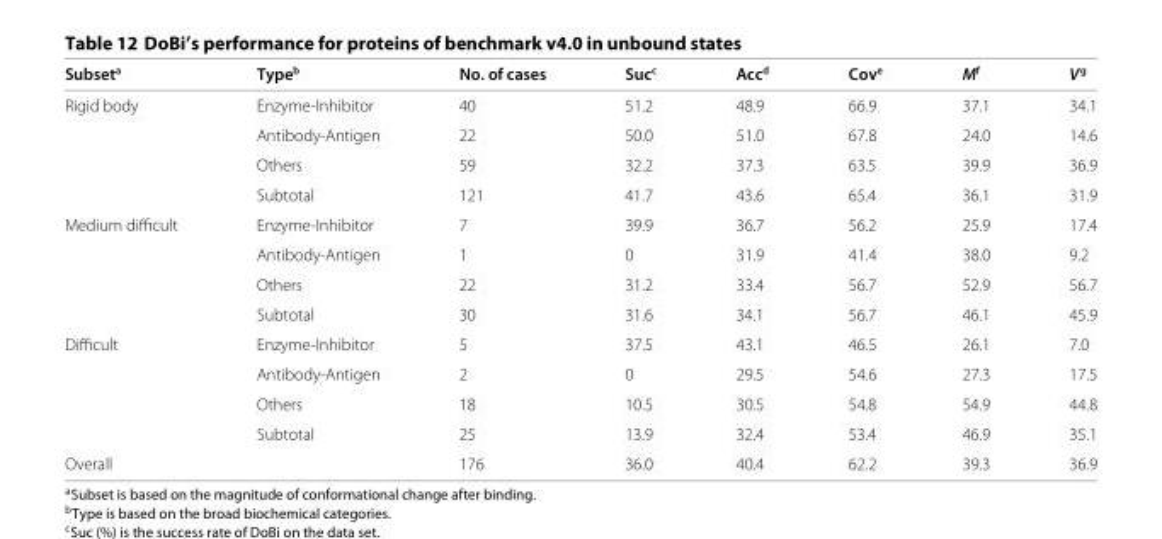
<table><thead><tr><td>Subset<sup>a</sup></td><td>Type<sup>b</sup></td><td>No. of cases</td><td>Suc<sup>c</sup></td><td>Acc<sup>d</sup></td><td>Cov<sup>e</sup></td><td>M<sup>f</sup></td><td>V<sup>g</sup></td></tr></thead><tbody><tr><td rowspan="4">Rigid body</td><td>Enzyme-Inhibitor</td><td>40</td><td>51.2</td><td>48.9</td><td>66.9</td><td>37.1</td><td>34.1</td></tr><tr><td>Antibody-Antigen</td><td>22</td><td>50.0</td><td>51.0</td><td>67.8</td><td>24.0</td><td>14.6</td></tr><tr><td>Others</td><td>59</td><td>32.2</td><td>37.3</td><td>63.5</td><td>39.9</td><td>36.9</td></tr><tr><td>Subtotal</td><td>121</td><td>41.7</td><td>43.6</td><td>65.4</td><td>36.1</td><td>31.9</td></tr><tr><td rowspan="4">Medium difficult</td><td>Enzyme-Inhibitor</td><td>7</td><td>39.9</td><td>36.7</td><td>56.2</td><td>25.9</td><td>17.4</td></tr><tr><td>Antibody-Antigen</td><td>1</td><td>0</td><td>31.9</td><td>41.4</td><td>38.0</td><td>9.2</td></tr><tr><td>Others</td><td>22</td><td>31.2</td><td>33.4</td><td>56.7</td><td>52.9</td><td>56.7</td></tr><tr><td>Subtotal</td><td>30</td><td>31.6</td><td>34.1</td><td>56.7</td><td>46.1</td><td>45.9</td></tr><tr><td rowspan="4">Difficult</td><td>Enzyme-Inhibitor</td><td>5</td><td>37.5</td><td>43.1</td><td>46.5</td><td>26.1</td><td>7.0</td></tr><tr><td>Antibody-Antigen</td><td>2</td><td>0</td><td>29.5</td><td>54.6</td><td>27.3</td><td>17.5</td></tr><tr><td>Others</td><td>18</td><td>10.5</td><td>30.5</td><td>54.8</td><td>54.9</td><td>44.8</td></tr><tr><td>Subtotal</td><td>25</td><td>13.9</td><td>32.4</td><td>53.4</td><td>46.9</td><td>35.1</td></tr><tr><td>Overall</td><td></td><td>176</td><td>36.0</td><td>40.4</td><td>62.2</td><td>39.3</td><td>36.9</td></tr></tbody></table>